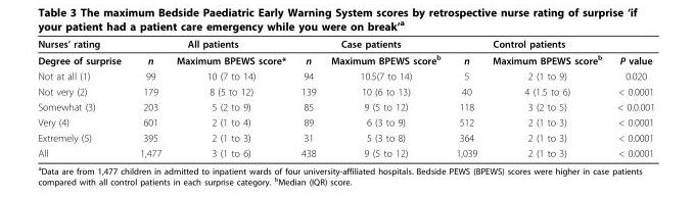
<table><thead><tr><td rowspan="2">Nurses’ rating Degree of surprise</td><td colspan="2">All patients</td><td colspan="2">Case patients</td><td colspan="2">Control patients</td><td rowspan="2">P value</td></tr><tr><td>n</td><td>Maximum BPEWS score*</td><td>n</td><td>Maximum BPEWS score<sup>b</sup></td><td>n</td><td>Maximum BPEWS score<sup>b</sup></td></tr></thead><tbody><tr><td>Not at all (1)</td><td>99</td><td>10 (7 to 14)</td><td>94</td><td>10.5(7 to 14)</td><td>5</td><td>2 (1 to 9)</td><td>0.020</td></tr><tr><td>Not very (2)</td><td>179</td><td>8 (5 to 12)</td><td>139</td><td>10 (6 to 13)</td><td>40</td><td>4 (1.5 to 6)</td><td>&lt; 0.0001</td></tr><tr><td>Somewhat (3)</td><td>203</td><td>5 (2 to 9)</td><td>85</td><td>9 (5 to 12)</td><td>118</td><td>3 (2 to 5)</td><td>&lt; 0.0.001</td></tr><tr><td>Very (4)</td><td>601</td><td>2 (1 to 4)</td><td>89</td><td>6 (3 to 9)</td><td>512</td><td>2 (1 to 3)</td><td>&lt; 0.0001</td></tr><tr><td>Extremely (5)</td><td>395</td><td>2 (1 to 3)</td><td>31</td><td>5 (3 to 8)</td><td>364</td><td>2 (1 to 3)</td><td>&lt; 0.0001</td></tr><tr><td>All</td><td>1,477</td><td>3 (1 to 6)</td><td>438</td><td>9 (5 to 12)</td><td>1,039</td><td>2 (1 to 3)</td><td>&lt; 0.0001</td></tr></tbody></table>